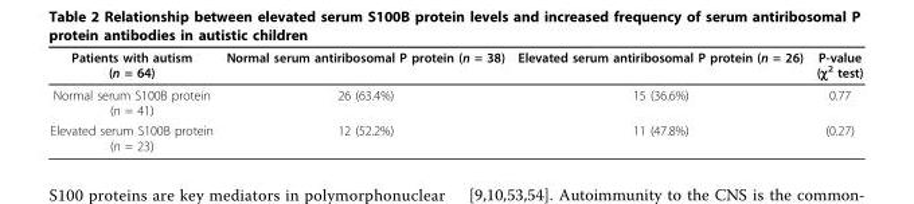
<table><thead><tr><td>Patients with autism (n = 64)</td><td>Normal serum antiribosomal P protein (n = 38)</td><td>Elevated serum antiribosomal P protein (n = 26)</td><td>P-value (χ<sup>2</sup> test)</td></tr></thead><tbody><tr><td>Normal serum S100B protein (n = 41)</td><td>26 (63.4%)</td><td>15 (36.6%)</td><td>0.77</td></tr><tr><td>Elevated serum S100B protein (n = 23)</td><td>12 (52.2%)</td><td>11 (47.8%)</td><td>(0.27)</td></tr></tbody></table>